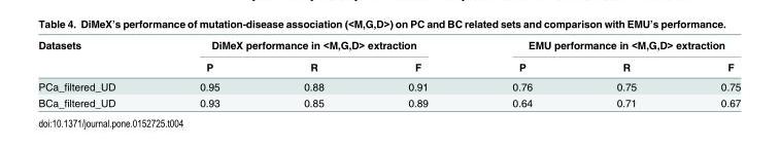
<table><thead><tr><td rowspan="2">Datasets</td><td colspan="3">DiMeX performance in &lt;M,G,D&gt; extraction</td><td colspan="3">EMU performance in &lt;M,G,D&gt; extraction</td></tr><tr><td>P</td><td>R</td><td>F</td><td>P</td><td>R</td><td>F</td></tr></thead><tbody><tr><td>PCa_filtered_UD</td><td>0.95</td><td>0.88</td><td>0.91</td><td>0.76</td><td>0.75</td><td>0.75</td></tr><tr><td>BCa_filtered_UD</td><td>0.93</td><td>0.85</td><td>0.89</td><td>0.64</td><td>0.71</td><td>0.67</td></tr></tbody></table>